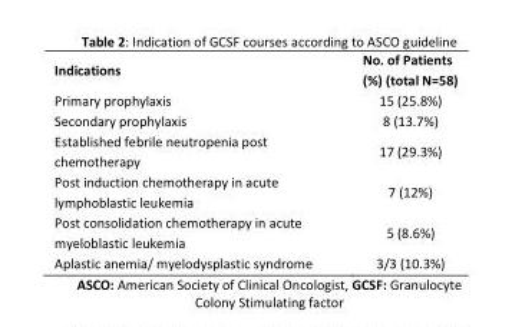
<table><tbody><tr><td>Indications</td><td>No. of Patients (%) (total N=58)</td></tr><tr><td>Primary prophylaxis</td><td>15 (25.8%)</td></tr><tr><td>Secondary prophylaxis</td><td>8 (13.7%)</td></tr><tr><td>Established febrile neutropenia post chemotherapy</td><td>17 (29.3%)</td></tr><tr><td>Post induction chemotherapy in acute lymphoblastic leukemia</td><td>7 (12%)</td></tr><tr><td>Post consolidation chemotherapy in acute myeloblastic leukemia</td><td>5 (8.6%)</td></tr><tr><td>Aplastic anemia/ myelodysplastic syndrome</td><td>3/3 (10.3%)</td></tr></tbody></table>